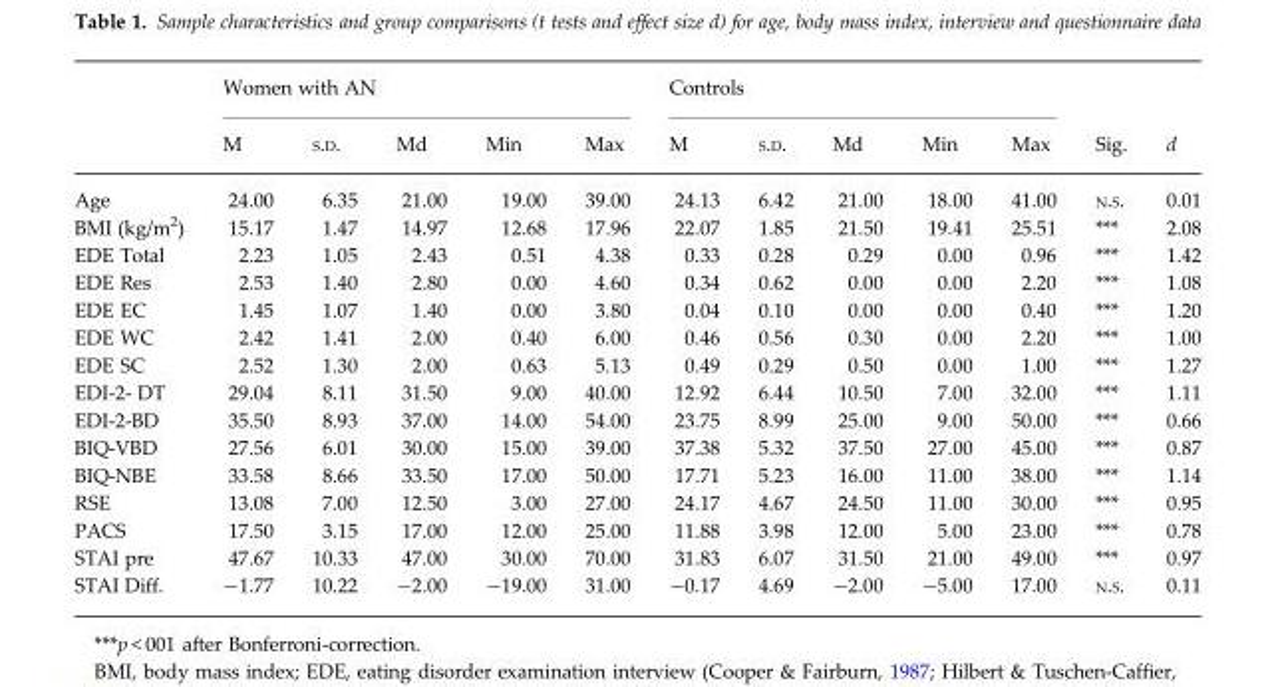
<table><thead><tr><td rowspan="2"></td><td colspan="5">Women with AN</td><td colspan="5">Controls</td><td rowspan="2">Sig.</td><td rowspan="2">d</td></tr><tr><td>M</td><td>S.D.</td><td>Md</td><td>Min</td><td>Max</td><td>M</td><td>S.D.</td><td>Md</td><td>Min</td><td>Max</td></tr></thead><tbody><tr><td>Age</td><td>24.00</td><td>6.35</td><td>21.00</td><td>19.00</td><td>39.00</td><td>24.13</td><td>6.42</td><td>21.00</td><td>18.00</td><td>41.00</td><td>N.S.</td><td>0.01</td></tr><tr><td>BMI (kg/m<sup>2</sup>)</td><td>15.17</td><td>1.47</td><td>14.97</td><td>12.68</td><td>17.96</td><td>22.07</td><td>1.85</td><td>21.50</td><td>19.41</td><td>25.51</td><td>***</td><td>2.08</td></tr><tr><td>EDE Total</td><td>2.23</td><td>1.05</td><td>2.43</td><td>0.51</td><td>4.38</td><td>0.33</td><td>0.28</td><td>0.29</td><td>0.00</td><td>0.96</td><td>***</td><td>1.42</td></tr><tr><td>EDE Res</td><td>2.53</td><td>1.40</td><td>2.80</td><td>0.00</td><td>4.60</td><td>0.34</td><td>0.62</td><td>0.00</td><td>0.00</td><td>2.20</td><td>***</td><td>1.08</td></tr><tr><td>EDE EC</td><td>1.45</td><td>1.07</td><td>1.40</td><td>0.00</td><td>3.80</td><td>0.04</td><td>0.10</td><td>0.00</td><td>0.00</td><td>0.40</td><td>***</td><td>1.20</td></tr><tr><td>EDE WC</td><td>2.42</td><td>1.41</td><td>2.00</td><td>0.40</td><td>6.00</td><td>0.46</td><td>0.56</td><td>0.30</td><td>0.00</td><td>2.20</td><td>***</td><td>1.00</td></tr><tr><td>EDE SC</td><td>2.52</td><td>1.30</td><td>2.00</td><td>0.63</td><td>5.13</td><td>0.49</td><td>0.29</td><td>0.50</td><td>0.00</td><td>1.00</td><td>***</td><td>1.27</td></tr><tr><td>EDI-2- DT</td><td>29.04</td><td>8.11</td><td>31.50</td><td>9.00</td><td>40.00</td><td>12.92</td><td>6.44</td><td>10.50</td><td>7.00</td><td>32.00</td><td>***</td><td>1.11</td></tr><tr><td>EDI-2-BD</td><td>35.50</td><td>8.93</td><td>37.00</td><td>14.00</td><td>54.00</td><td>23.75</td><td>8.99</td><td>25.00</td><td>9.00</td><td>50.00</td><td>***</td><td>0.66</td></tr><tr><td>BIQ-VBD</td><td>27.56</td><td>6.01</td><td>30.00</td><td>15.00</td><td>39.00</td><td>37.38</td><td>5.32</td><td>37.50</td><td>27.00</td><td>45.00</td><td>***</td><td>0.87</td></tr><tr><td>BIQ-NBE</td><td>33.58</td><td>8.66</td><td>33.50</td><td>17.00</td><td>50.00</td><td>17.71</td><td>5.23</td><td>16.00</td><td>11.00</td><td>38.00</td><td>***</td><td>1.14</td></tr><tr><td>RSE</td><td>13.08</td><td>7.00</td><td>12.50</td><td>3.00</td><td>27.00</td><td>24.17</td><td>4.67</td><td>24.50</td><td>11.00</td><td>30.00</td><td>***</td><td>0.95</td></tr><tr><td>PACS</td><td>17.50</td><td>3.15</td><td>17.00</td><td>12.00</td><td>25.00</td><td>11.88</td><td>3.98</td><td>12.00</td><td>5.00</td><td>23.00</td><td>***</td><td>0.78</td></tr><tr><td>STAI pre</td><td>47.67</td><td>10.33</td><td>47.00</td><td>30.00</td><td>70.00</td><td>31.83</td><td>6.07</td><td>31.50</td><td>21.00</td><td>49.00</td><td>***</td><td>0.97</td></tr><tr><td>STAI Diff.</td><td>−1.77</td><td>10.22</td><td>−2.00</td><td>−19.00</td><td>31.00</td><td>−0.17</td><td>4.69</td><td>−2.00</td><td>−5.00</td><td>17.00</td><td>N.S.</td><td>0.11</td></tr></tbody></table>